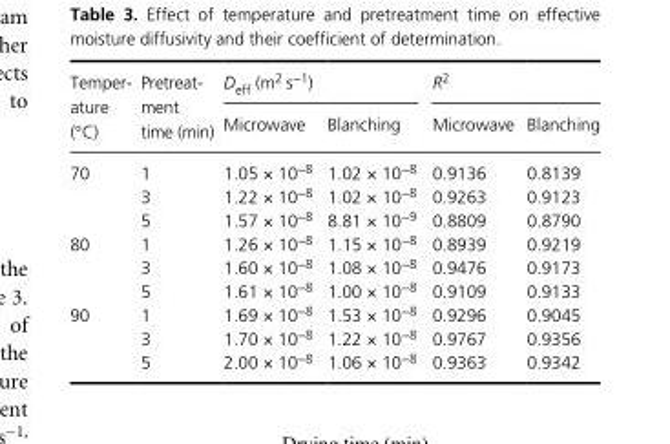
<table><thead><tr><td rowspan="2">Temper- ature (°C)</td><td rowspan="2">Pre treat- ment time (min)</td><td colspan="2">D<sub>eff</sub> (m<sup>2</sup> s<sup>−1</sup>)</td><td colspan="2">R<sup>2</sup></td></tr><tr><td>Microwave</td><td>Blanching</td><td>Microwave</td><td>Blanching</td></tr></thead><tbody><tr><td rowspan="3">70</td><td>1</td><td>1.05 × 10<sup>−8</sup></td><td>1.02 × 10<sup>−8</sup></td><td>0.9136</td><td>0.8139</td></tr><tr><td>3</td><td>1.22 × 10<sup>−8</sup></td><td>1.02 × 10<sup>−8</sup></td><td>0.9263</td><td>0.9123</td></tr><tr><td>5</td><td>1.57 × 10<sup>−8</sup></td><td>8.81 × 10<sup>−9</sup></td><td>0.8809</td><td>0.8790</td></tr><tr><td rowspan="3">80</td><td>1</td><td>1.26 × 10<sup>−8</sup></td><td>1.15 × 10<sup>−8</sup></td><td>0.8939</td><td>0.9219</td></tr><tr><td>3</td><td>1.60 × 10<sup>−8</sup></td><td>1.08 × 10<sup>−8</sup></td><td>0.9476</td><td>0.9173</td></tr><tr><td>5</td><td>1.61 × 10<sup>−8</sup></td><td>1.00 × 10<sup>−8</sup></td><td>0.9109</td><td>0.9133</td></tr><tr><td rowspan="3">90</td><td>1</td><td>1.69 × 10<sup>−8</sup></td><td>1.53 × 10<sup>−8</sup></td><td>0.9296</td><td>0.9045</td></tr><tr><td>3</td><td>1.70 × 10<sup>−8</sup></td><td>1.22 × 10<sup>−8</sup></td><td>0.9767</td><td>0.9356</td></tr><tr><td>5</td><td>2.00 × 10<sup>−8</sup></td><td>1.06 × 10<sup>−8</sup></td><td>0.9363</td><td>0.9342</td></tr></tbody></table>